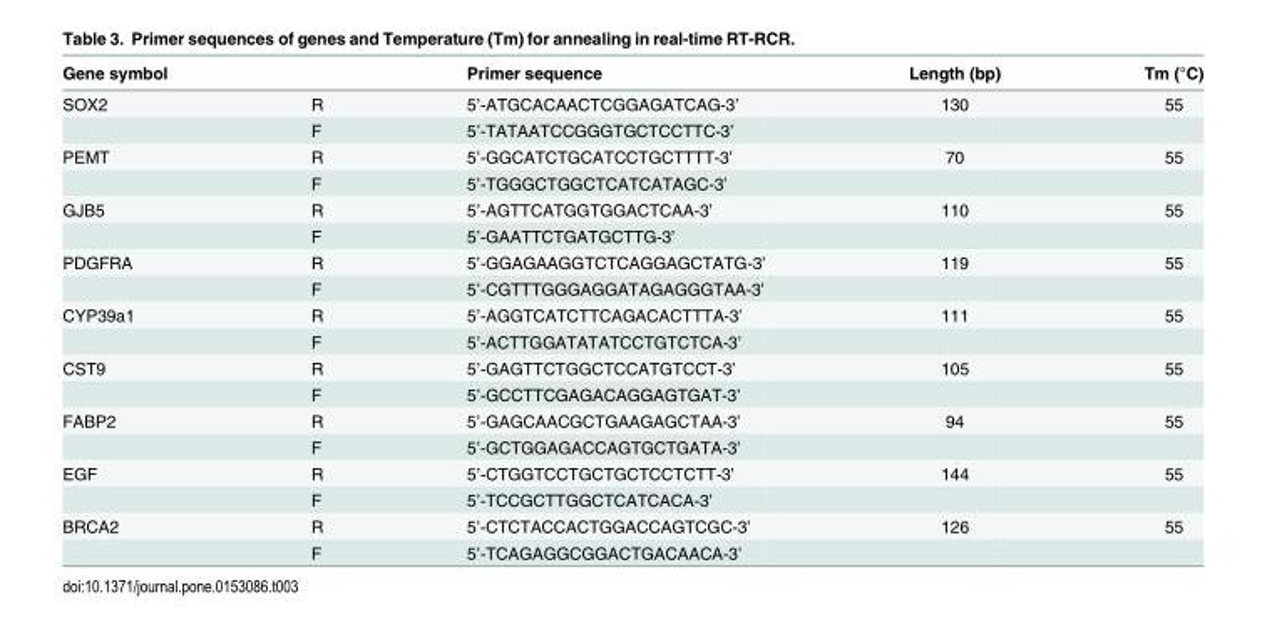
<table><thead><tr><td>Gene symbol</td><td></td><td>Primer sequence</td><td>Length (bp)</td><td>Tm (°C)</td></tr></thead><tbody><tr><td rowspan="2">SOX2</td><td>R</td><td>5’-ATGCACAACTCGGAGATCAG-3’</td><td>130</td><td>55</td></tr><tr><td>F</td><td>5’-TATAATCCGGGTGCTCCTTC-3’</td><td></td><td></td></tr><tr><td rowspan="2">PEMT</td><td>R</td><td>5’-GGCATCTGCATCCTGCTTTT-3’</td><td>70</td><td>55</td></tr><tr><td>F</td><td>5’-TGGGCTGGCTCATCATAGC-3’</td><td></td><td></td></tr><tr><td rowspan="2">GJB5</td><td>R</td><td>5’-AGTTCATGGTGGACTCAA-3’</td><td>110</td><td>55</td></tr><tr><td>F</td><td>5’-GAATTCTGATGCTTG-3’</td><td></td><td></td></tr><tr><td rowspan="2">PDGFRA</td><td>R</td><td>5’-GGAGAAGGTCTCAGGAGCTATG-3’</td><td>119</td><td>55</td></tr><tr><td>F</td><td>5’-CGTTTGGGAGGATAGAGGGTAA-3’</td><td></td><td></td></tr><tr><td rowspan="2">CYP39a1</td><td>R</td><td>5’-AGGTCATCTTCAGACACTTTA-3’</td><td>111</td><td>55</td></tr><tr><td>F</td><td>5’-ACTTGGATATATCCTGTCTCA-3’</td><td></td><td></td></tr><tr><td rowspan="2">CST9</td><td>R</td><td>5’-GAGTTCTGGCTCCATGTCCT-3’</td><td>105</td><td>55</td></tr><tr><td>F</td><td>5’-GCCTTCGAGACAGGAGTGAT-3’</td><td></td><td></td></tr><tr><td rowspan="2">FABP2</td><td>R</td><td>5’-GAGCAACGCTGAAGAGCTAA-3’</td><td>94</td><td>55</td></tr><tr><td>F</td><td>5’-GCTGGAGACCAGTGCTGATA-3’</td><td></td><td></td></tr><tr><td rowspan="2">EGF</td><td>R</td><td>5’-CTGGTCCTGCTGCTCCTCTT-3’</td><td>144</td><td>55</td></tr><tr><td>F</td><td>5’-TCCGCTTGGCTCATCACA-3’</td><td></td><td></td></tr><tr><td rowspan="2">BRCA2</td><td>R</td><td>5’-CTCTACCACTGGACCAGTCGC-3’</td><td>126</td><td>55</td></tr><tr><td>F</td><td>5’-TCAGAGGCGGACTGACAACA-3’</td><td></td><td></td></tr></tbody></table>